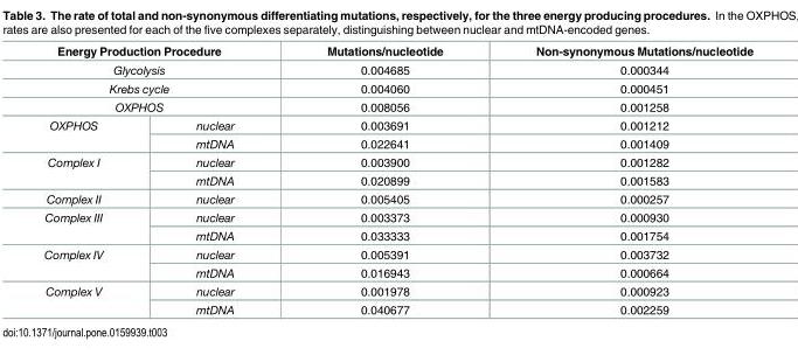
<table><thead><tr><td colspan="2">Energy Production Procedure</td><td>Mutations/nucleotide</td><td>Non-synonymous Mutations/nucleotide</td></tr></thead><tbody><tr><td colspan="2">Glycolysis</td><td>0.004685</td><td>0.000344</td></tr><tr><td colspan="2">Krebs cycle</td><td>0.004060</td><td>0.000451</td></tr><tr><td colspan="2">OXPHOS</td><td>0.008056</td><td>0.001258</td></tr><tr><td rowspan="2">OXPHOS</td><td>nuclear</td><td>0.003691</td><td>0.001212</td></tr><tr><td>mtDNA</td><td>0.022641</td><td>0.001409</td></tr><tr><td rowspan="2">Complex I</td><td>nuclear</td><td>0.003900</td><td>0.001282</td></tr><tr><td>mtDNA</td><td>0.020899</td><td>0.001583</td></tr><tr><td>Complex II</td><td>nuclear</td><td>0.005405</td><td>0.000257</td></tr><tr><td rowspan="2">Complex III</td><td>nuclear</td><td>0.003373</td><td>0.000930</td></tr><tr><td>mtDNA</td><td>0.033333</td><td>0.001754</td></tr><tr><td rowspan="2">Complex IV</td><td>nuclear</td><td>0.005391</td><td>0.003732</td></tr><tr><td>mtDNA</td><td>0.016943</td><td>0.000664</td></tr><tr><td rowspan="2">Complex V</td><td>nuclear</td><td>0.001978</td><td>0.000923</td></tr><tr><td>mtDNA</td><td>0.040677</td><td>0.002259</td></tr></tbody></table>